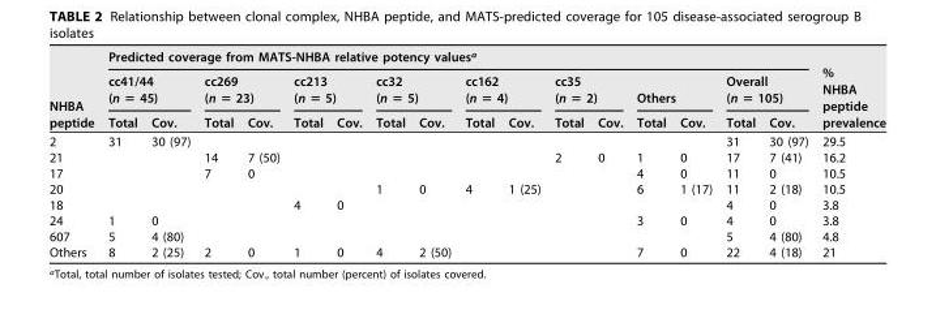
<table><thead><tr><td rowspan="3">NHBA peptide</td><td colspan="16">Predicted coverage from MATS-NHBA relative potency values<sup>a</sup></td><td rowspan="3">% NHBA peptide prevalence</td></tr><tr><td colspan="2">cc41/44 (n = 45)</td><td colspan="2">cc269 (n = 23)</td><td colspan="2">cc213 (n = 5)</td><td colspan="2">cc32 (n = 5)</td><td colspan="2">cc162 (n = 4)</td><td colspan="2">cc35 (n = 2)</td><td colspan="2">Others</td><td colspan="2">Overall (n = 105)</td></tr><tr><td>Total</td><td>Cov.</td><td>Total</td><td>Cov.</td><td>Total</td><td>Cov.</td><td>Total</td><td>Cov.</td><td>Total</td><td>Cov.</td><td>Total</td><td>Cov.</td><td>Total</td><td>Cov.</td><td>Total</td><td>Cov.</td></tr></thead><tbody><tr><td>2</td><td>31</td><td>30 (97)</td><td></td><td></td><td></td><td></td><td></td><td></td><td></td><td></td><td></td><td></td><td></td><td></td><td>31</td><td>30 (97)</td><td>29.5</td></tr><tr><td>21</td><td></td><td></td><td>14</td><td>7 (50)</td><td></td><td></td><td></td><td></td><td></td><td></td><td>2</td><td>0</td><td>1</td><td>0</td><td>17</td><td>7 (41)</td><td>16.2</td></tr><tr><td>17</td><td></td><td></td><td>7</td><td>0</td><td></td><td></td><td></td><td></td><td></td><td></td><td></td><td></td><td>4</td><td>0</td><td>11</td><td>0</td><td>10.5</td></tr><tr><td>20</td><td></td><td></td><td></td><td></td><td></td><td></td><td>1</td><td>0</td><td>4</td><td>1 (25)</td><td></td><td></td><td>6</td><td>1 (17)</td><td>11</td><td>2 (18)</td><td>10.5</td></tr><tr><td>18</td><td></td><td></td><td></td><td></td><td>4</td><td>0</td><td></td><td></td><td></td><td></td><td></td><td></td><td></td><td></td><td>4</td><td>0</td><td>3.8</td></tr><tr><td>24</td><td>1</td><td>0</td><td></td><td></td><td></td><td></td><td></td><td></td><td></td><td></td><td></td><td></td><td>3</td><td>0</td><td>4</td><td>0</td><td>3.8</td></tr><tr><td>607</td><td>5</td><td>4 (80)</td><td></td><td></td><td></td><td></td><td></td><td></td><td></td><td></td><td></td><td></td><td></td><td></td><td>5</td><td>4 (80)</td><td>4.8</td></tr><tr><td>Others</td><td>8</td><td>2 (25)</td><td>2</td><td>0</td><td>1</td><td>0</td><td>4</td><td>2 (50)</td><td></td><td></td><td></td><td></td><td>7</td><td>0</td><td>22</td><td>4 (18)</td><td>21</td></tr></tbody></table>